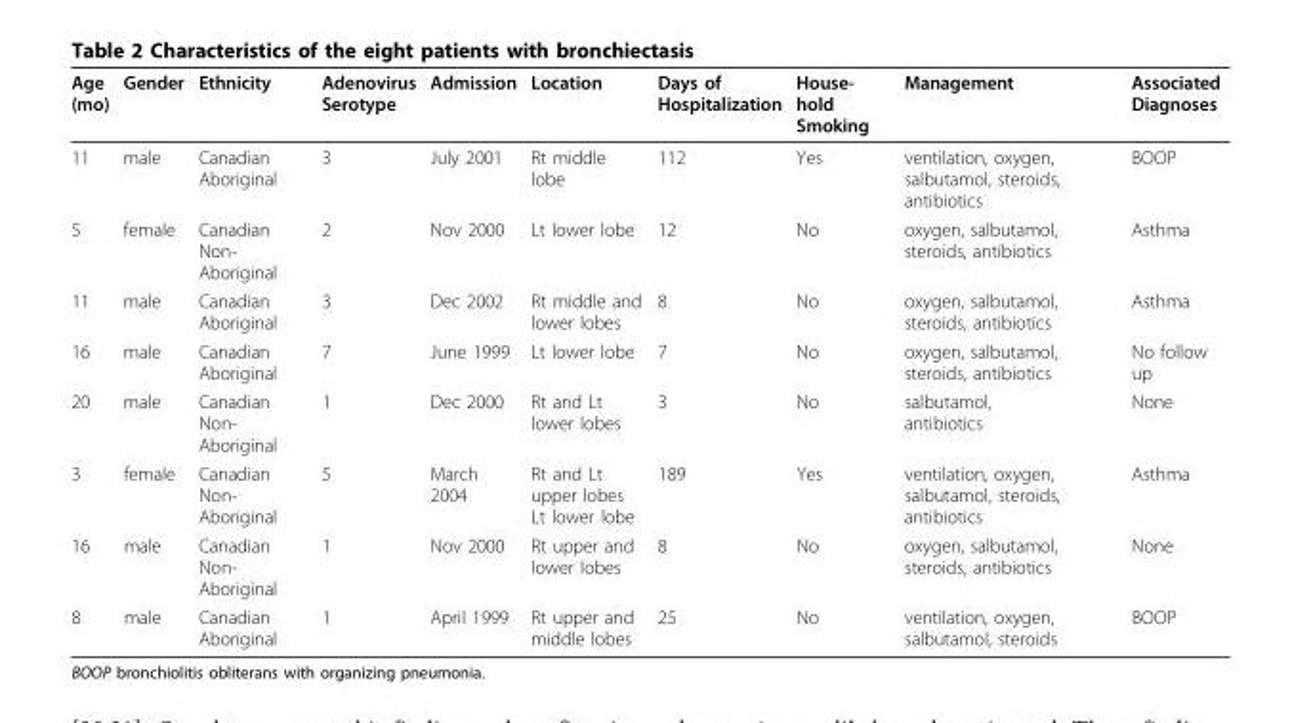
<table><thead><tr><td>Age (mo)</td><td>Gender</td><td>Ethnicity</td><td>Adenovirus Serotype</td><td>Admission</td><td>Location</td><td>Days of Hospitalization</td><td>House- hold Smoking</td><td>Management</td><td>Associated Diagnoses</td></tr></thead><tbody><tr><td>11</td><td>male</td><td>Canadian Aboriginal</td><td>3</td><td>July 2001</td><td>Rt middle lobe</td><td>112</td><td>Yes</td><td>ventilation, oxygen, salbutamol, steroids, antibiotics</td><td>BOOP</td></tr><tr><td>5</td><td>female</td><td>Canadian Non- Aboriginal</td><td>2</td><td>Nov 2000</td><td>Lt lower lobe</td><td>12</td><td>No</td><td>oxygen, salbutamol, steroids, antibiotics</td><td>Asthma</td></tr><tr><td>11</td><td>male</td><td>Canadian Aboriginal</td><td>3</td><td>Dec 2002</td><td>Rt middle and lower lobes</td><td>8</td><td>No</td><td>oxygen, salbutamol, steroids, antibiotics</td><td>Asthma</td></tr><tr><td>16</td><td>male</td><td>Canadian Aboriginal</td><td>7</td><td>June 1999</td><td>Lt lower lobe</td><td>7</td><td>No</td><td>oxygen, salbutamol, steroids, antibiotics</td><td>No follow up</td></tr><tr><td>20</td><td>male</td><td>Canadian Non- Aboriginal</td><td>1</td><td>Dec 2000</td><td>Rt and Lt lower lobes</td><td>3</td><td>No</td><td>salbutamol, antibiotics</td><td>None</td></tr><tr><td>3</td><td>female</td><td>Canadian Non- Aboriginal</td><td>5</td><td>March 2004</td><td>Rt and Lt upper lobes Lt lower lobe</td><td>189</td><td>Yes</td><td>ventilation, oxygen, salbutamol, steroids, antibiotics</td><td>Asthma</td></tr><tr><td>16</td><td>male</td><td>Canadian Non- Aboriginal</td><td>1</td><td>Nov 2000</td><td>Rt upper and lower lobes</td><td>8</td><td>No</td><td>oxygen, salbutamol, steroids, antibiotics</td><td>None</td></tr><tr><td>8</td><td>male</td><td>Canadian Aboriginal</td><td>1</td><td>April 1999</td><td>Rt upper and middle lobes</td><td>25</td><td>No</td><td>ventilation, oxygen, salbutamol, steroids</td><td>BOOP</td></tr></tbody></table>